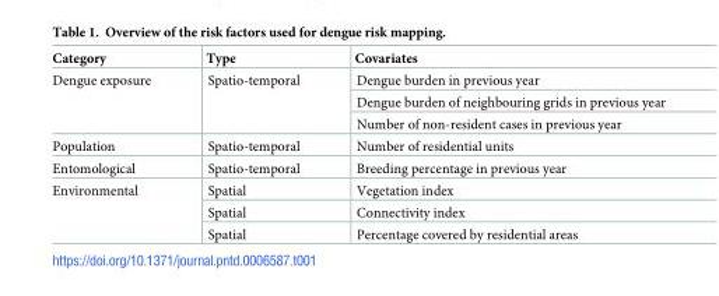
<table><thead><tr><td>Category</td><td>Type</td><td>Covariates</td></tr></thead><tbody><tr><td rowspan="3">Dengue exposure</td><td rowspan="3">Spatio-temporal</td><td>Dengue burden in previous year</td></tr><tr><td>Dengue burden of neighbouring grids in previous year</td></tr><tr><td>Number of non-resident cases in previous year</td></tr><tr><td>Population</td><td>Spatio-temporal</td><td>Number of residential units</td></tr><tr><td>Entomological</td><td>Spatio-temporal</td><td>Breeding percentage in previous year</td></tr><tr><td rowspan="3">Environmental</td><td>Spatial</td><td>Vegetation index</td></tr><tr><td>Spatial</td><td>Connectivity index</td></tr><tr><td>Spatial</td><td>Percentage covered by residential areas</td></tr></tbody></table>